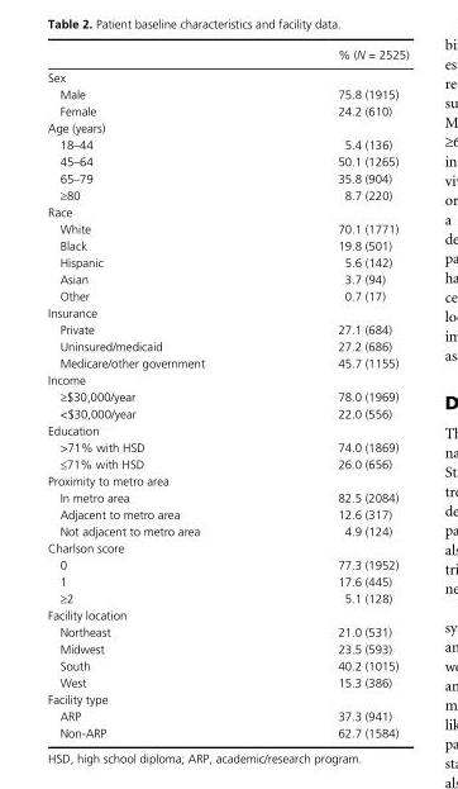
<table><thead><tr><td></td><td>% (N = 2525)</td></tr></thead><tbody><tr><td colspan="2">Sex</td></tr><tr><td>Male</td><td>75.8 (1915)</td></tr><tr><td>Female</td><td>24.2 (610)</td></tr><tr><td colspan="2">Age (years)</td></tr><tr><td>18–44</td><td>5.4 (136)</td></tr><tr><td>45–64</td><td>50.1 (1265)</td></tr><tr><td>65–79</td><td>35.8 (904)</td></tr><tr><td>≥80</td><td>8.7 (220)</td></tr><tr><td colspan="2">Race</td></tr><tr><td>White</td><td>70.1 (1771)</td></tr><tr><td>Black</td><td>19.8 (501)</td></tr><tr><td>Hispanic</td><td>5.6 (142)</td></tr><tr><td>Asian</td><td>3.7 (94)</td></tr><tr><td>Other</td><td>0.7 (17)</td></tr><tr><td colspan="2">Insurance</td></tr><tr><td>Private</td><td>27.1 (684)</td></tr><tr><td>Uninsured/medicaid</td><td>27.2 (686)</td></tr><tr><td>Medicare/other government</td><td>45.7 (1155)</td></tr><tr><td colspan="2">Income</td></tr><tr><td>≥$30,000/year</td><td>78.0 (1969)</td></tr><tr><td>&lt;$30,000/year</td><td>22.0 (556)</td></tr><tr><td colspan="2">Education</td></tr><tr><td>&gt;71% with HSD</td><td>74.0 (1869)</td></tr><tr><td>≤71% with HSD</td><td>26.0 (656)</td></tr><tr><td colspan="2">Proximity to metro area</td></tr><tr><td>In metro area</td><td>82.5 (2084)</td></tr><tr><td>Adjacent to metro area</td><td>12.6 (317)</td></tr><tr><td>Not adjacent to metro area</td><td>4.9 (124)</td></tr><tr><td colspan="2">Charlson score</td></tr><tr><td>0</td><td>77.3 (1952)</td></tr><tr><td>1</td><td>17.6 (445)</td></tr><tr><td>≥2</td><td>5.1 (128)</td></tr><tr><td colspan="2">Facility location</td></tr><tr><td>Northeast</td><td>21.0 (531)</td></tr><tr><td>Midwest</td><td>23.5 (593)</td></tr><tr><td>South</td><td>40.2 (1015)</td></tr><tr><td>West</td><td>15.3 (386)</td></tr><tr><td colspan="2">Facility type</td></tr><tr><td>ARP</td><td>37.3 (941)</td></tr><tr><td>Non- ARP</td><td>62.7 (1584)</td></tr></tbody></table>